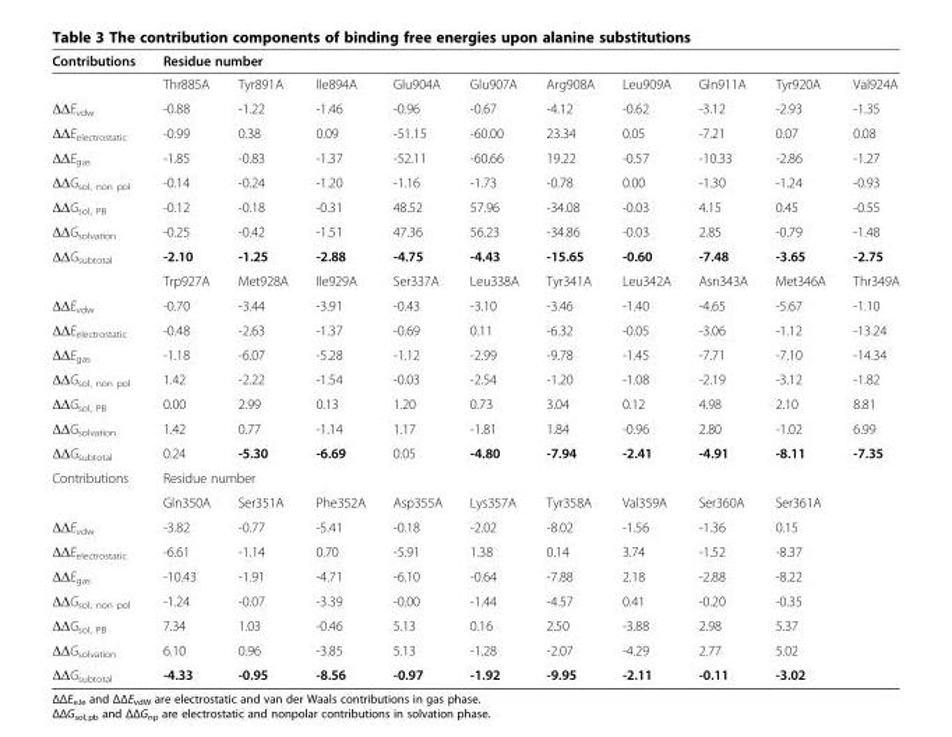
<table><thead><tr><td rowspan="2">Contributions</td><td colspan="10">Residue number</td></tr><tr><td>Thr885A</td><td>Tyr891A</td><td>Ile894A</td><td>Glu904A</td><td>Glu907A</td><td>Arg908A</td><td>Leu909A</td><td>Gln911A</td><td>Tyr920A</td><td>Val924A</td></tr></thead><tbody><tr><td>ΔΔE<sub>vdw</sub></td><td>-0.88</td><td>-1.22</td><td>-1.46</td><td>-0.96</td><td>-0.67</td><td>-4.12</td><td>-0.62</td><td>-3.12</td><td>-2.93</td><td>-1.35</td></tr><tr><td>ΔΔE<sub>electrostatic</sub></td><td>-0.99</td><td>0.38</td><td>0.09</td><td>-51.15</td><td>-60.00</td><td>23.34</td><td>0.05</td><td>-7.21</td><td>0.07</td><td>0.08</td></tr><tr><td>ΔΔE<sub>gas</sub></td><td>-1.85</td><td>-0.83</td><td>-1.37</td><td>-52.11</td><td>-60.66</td><td>19.22</td><td>-0.57</td><td>-10.33</td><td>-2.86</td><td>-1.27</td></tr><tr><td>ΔΔG<sub>sol, non pol</sub></td><td>-0.14</td><td>-0.24</td><td>-1.20</td><td>-1.16</td><td>-1.73</td><td>-0.78</td><td>0.00</td><td>-1.30</td><td>-1.24</td><td>-0.93</td></tr><tr><td>ΔΔG<sub>sol, PB</sub></td><td>-0.12</td><td>-0.18</td><td>-0.31</td><td>48.52</td><td>57.96</td><td>-34.08</td><td>-0.03</td><td>4.15</td><td>0.45</td><td>-0.55</td></tr><tr><td>ΔΔG<sub>solvation</sub></td><td>-0.25</td><td>-0.42</td><td>-1.51</td><td>47.36</td><td>56.23</td><td>-34.86</td><td>-0.03</td><td>2.85</td><td>-0.79</td><td>-1.48</td></tr><tr><td rowspan="2">ΔΔG<sub>subtotal</sub></td><td>-2.10</td><td>-1.25</td><td>-2.88</td><td>-4.75</td><td>-4.43</td><td>-15.65</td><td>-0.60</td><td>-7.48</td><td>-3.65</td><td>-2.75</td></tr><tr><td>Trp927A</td><td>Met928A</td><td>Ile929A</td><td>Ser337A</td><td>Leu338A</td><td>Tyr341A</td><td>Leu342A</td><td>Asn343A</td><td>Met346A</td><td>Thr349A</td></tr><tr><td>ΔΔE<sub>vdw</sub></td><td>-0.70</td><td>-3.44</td><td>-3.91</td><td>-0.43</td><td>-3.10</td><td>-3.46</td><td>-1.40</td><td>-4.65</td><td>-5.67</td><td>-1.10</td></tr><tr><td>ΔΔE<sub>electrostatic</sub></td><td>-0.48</td><td>-2.63</td><td>-1.37</td><td>-0.69</td><td>0.11</td><td>-6.32</td><td>-0.05</td><td>-3.06</td><td>-1.12</td><td>-13.24</td></tr><tr><td>ΔΔE<sub>gas</sub></td><td>-1.18</td><td>-6.07</td><td>-5.28</td><td>-1.12</td><td>-2.99</td><td>-9.78</td><td>-1.45</td><td>-7.71</td><td>-7.10</td><td>-14.34</td></tr><tr><td>ΔΔG<sub>sol, non pol</sub></td><td>1.42</td><td>-2.22</td><td>-1.54</td><td>-0.03</td><td>-2.54</td><td>-1.20</td><td>-1.08</td><td>-2.19</td><td>-3.12</td><td>-1.82</td></tr><tr><td>ΔΔG<sub>sol, PB</sub></td><td>0.00</td><td>2.99</td><td>0.13</td><td>1.20</td><td>0.73</td><td>3.04</td><td>0.12</td><td>4.98</td><td>2.10</td><td>8.81</td></tr><tr><td>ΔΔG<sub>solvation</sub></td><td>1.42</td><td>0.77</td><td>-1.14</td><td>1.17</td><td>-1.81</td><td>1.84</td><td>-0.96</td><td>2.80</td><td>-1.02</td><td>6.99</td></tr><tr><td>ΔΔG<sub>subtotal</sub></td><td>0.24</td><td>-5.30</td><td>-6.69</td><td>0.05</td><td>-4.80</td><td>-7.94</td><td>-2.41</td><td>-4.91</td><td>-8.11</td><td>-7.35</td></tr><tr><td rowspan="2">Contributions</td><td colspan="10">Residue number</td></tr><tr><td>Gln350A</td><td>Ser351A</td><td>Phe352A</td><td>Asp355A</td><td>Lys357A</td><td>Tyr358A</td><td>Val359A</td><td>Ser360A</td><td>Ser361A</td><td></td></tr><tr><td>ΔΔE<sub>vdw</sub></td><td>-3.82</td><td>-0.77</td><td>-5.41</td><td>-0.18</td><td>-2.02</td><td>-8.02</td><td>-1.56</td><td>-1.36</td><td>0.15</td><td></td></tr><tr><td>ΔΔE<sub>electrostatic</sub></td><td>-6.61</td><td>-1.14</td><td>0.70</td><td>-5.91</td><td>1.38</td><td>0.14</td><td>3.74</td><td>-1.52</td><td>-8.37</td><td></td></tr><tr><td>ΔΔE<sub>gas</sub></td><td>-10.43</td><td>-1.91</td><td>-4.71</td><td>-6.10</td><td>-0.64</td><td>-7.88</td><td>2.18</td><td>-2.88</td><td>-8.22</td><td></td></tr><tr><td>ΔΔG<sub>sol, non pol</sub></td><td>-1.24</td><td>-0.07</td><td>-3.39</td><td>-0.00</td><td>-1.44</td><td>-4.57</td><td>0.41</td><td>-0.20</td><td>-0.35</td><td></td></tr><tr><td>ΔΔG<sub>sol, PB</sub></td><td>7.34</td><td>1.03</td><td>-0.46</td><td>5.13</td><td>0.16</td><td>2.50</td><td>-3.88</td><td>2.98</td><td>5.37</td><td></td></tr><tr><td>ΔΔG<sub>solvation</sub></td><td>6.10</td><td>0.96</td><td>-3.85</td><td>5.13</td><td>-1.28</td><td>-2.07</td><td>-4.29</td><td>2.77</td><td>5.02</td><td></td></tr><tr><td>ΔΔG<sub>subtotal</sub></td><td>-4.33</td><td>-0.95</td><td>-8.56</td><td>-0.97</td><td>-1.92</td><td>-9.95</td><td>-2.11</td><td>-0.11</td><td>-3.02</td><td></td></tr></tbody></table>